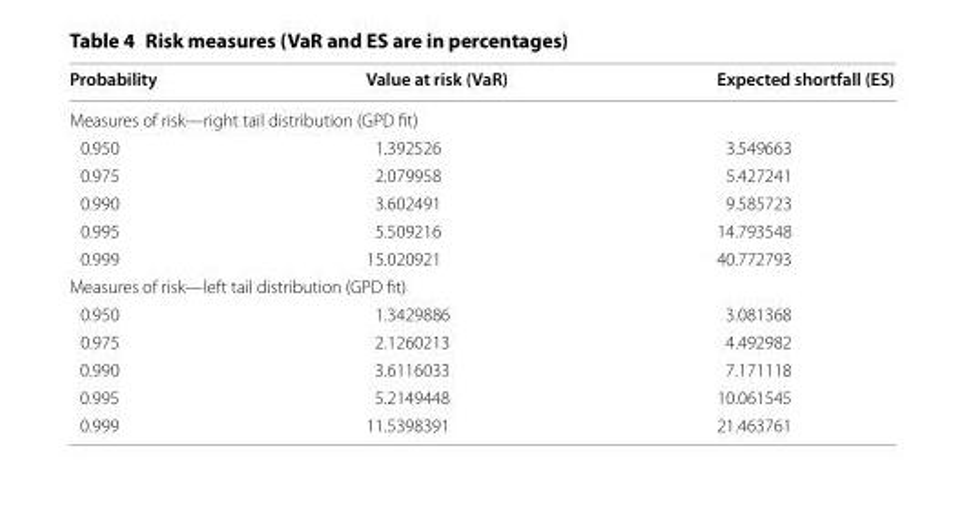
<table><thead><tr><td>Probability</td><td>Value at risk (VaR)</td><td>Expected shortfall (ES)</td></tr></thead><tbody><tr><td colspan="3">Measures of risk—right tail distribution (GPD fit)</td></tr><tr><td>0.950</td><td>1.392526</td><td>3.549663</td></tr><tr><td>0.975</td><td>2.079958</td><td>5.427241</td></tr><tr><td>0.990</td><td>3.602491</td><td>9.585723</td></tr><tr><td>0.995</td><td>5.509216</td><td>14.793548</td></tr><tr><td>0.999</td><td>15.020921</td><td>40.772793</td></tr><tr><td colspan="3">Measures of risk—left tail distribution (GPD fit)</td></tr><tr><td>0.950</td><td>1.3429886</td><td>3.081368</td></tr><tr><td>0.975</td><td>2.1260213</td><td>4.492982</td></tr><tr><td>0.990</td><td>3.6116033</td><td>7.171118</td></tr><tr><td>0.995</td><td>5.2149448</td><td>10.061545</td></tr><tr><td>0.999</td><td>11.5398391</td><td>21.463761</td></tr></tbody></table>